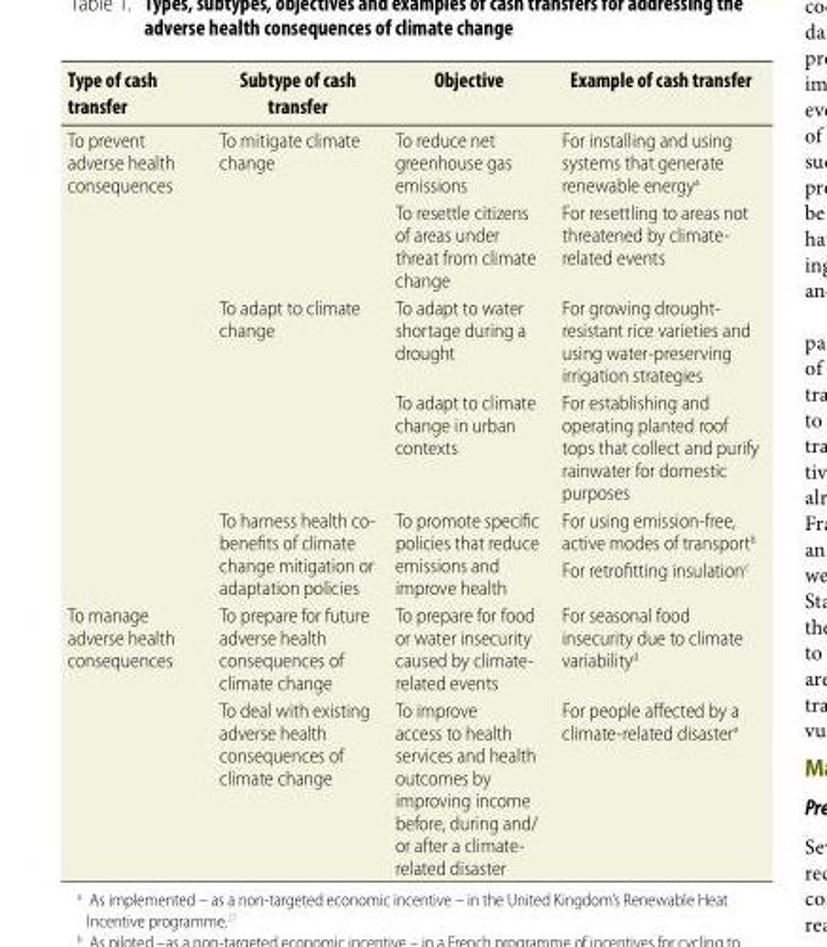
<table><thead><tr><td>Type of cash transfer</td><td>Subtype of cash transfer</td><td>Objective</td><td>Example of cash transfer</td></tr></thead><tbody><tr><td rowspan="6">To prevent adverse health consequences</td><td rowspan="2">To mitigate climate change</td><td>To reduce net greenhouse gas emissions</td><td>For installing and using systems that generate renewable energy<sup>a</sup></td></tr><tr><td>To resettle citizens of areas under threat from climate change</td><td>For resettling to areas not threatened by climate- related events</td></tr><tr><td rowspan="2">To adapt to climate change</td><td>To adapt to water shortage during a drought</td><td>For growing drought- resistant rice varieties and using water-preserving irrigation strategies</td></tr><tr><td>To adapt to climate change in urban contexts</td><td>For establishing and operating planted roof tops that collect and purify rainwater for domestic purposes</td></tr><tr><td rowspan="2">To harness health co- benefits of climate change mitigation or adaptation policies</td><td rowspan="2">To promote specific policies that reduce emissions and improve health</td><td>For using emission-free, active modes of transport<sup>b</sup></td></tr><tr><td>For retrofitting insulation<sup>c</sup></td></tr><tr><td rowspan="2">To manage adverse health consequences</td><td>To prepare for future adverse health consequences of climate change</td><td>To prepare for food or water insecurity caused by climate- related events</td><td>For seasonal food insecurity due to climate variability<sup>d</sup></td></tr><tr><td>To deal with existing adverse health consequences of climate change</td><td>To improve access to health services and health outcomes by improving income before, during and/ or after a climate- related disaster</td><td>For people affected by a climate-related disaster<sup>e</sup></td></tr></tbody></table>